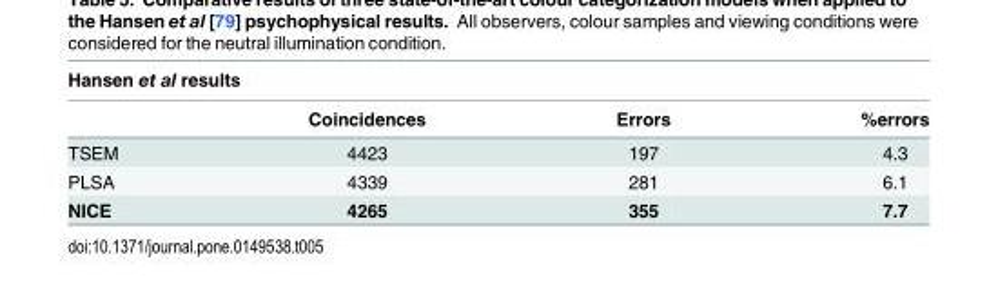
<table><thead><tr><td colspan="4">Hansen et al results</td></tr><tr><td></td><td>Coincidences</td><td>Errors</td><td>%errors</td></tr></thead><tbody><tr><td>TSEM</td><td>4423</td><td>197</td><td>4.3</td></tr><tr><td>PLSA</td><td>4339</td><td>281</td><td>6.1</td></tr><tr><td>NICE</td><td>4265</td><td>355</td><td>7.7</td></tr></tbody></table>